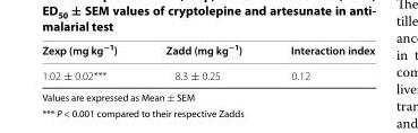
<table><thead><tr><td>Zexp (mg kg<sup>−1</sup>)</td><td>Zadd (mg kg<sup>−1</sup>)</td><td>Interaction index</td></tr></thead><tbody><tr><td>1.02 ± 0.02***</td><td>8.3 ± 0.25</td><td>0.12</td></tr></tbody></table>